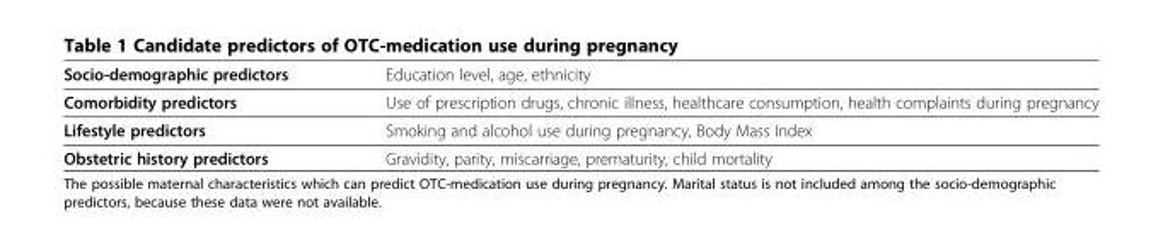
<table><thead><tr><td>Socio-demographic predictors</td><td>Education level, age, ethnicity</td></tr></thead><tbody><tr><td>Comorbidity predictors</td><td>Use of prescription drugs, chronic illness, healthcare consumption, health complaints during pregnancy</td></tr><tr><td>Lifestyle predictors</td><td>Smoking and alcohol use during pregnancy, Body Mass Index</td></tr><tr><td>Obstetric history predictors</td><td>Gravidity, parity, miscarriage, prematurity, child mortality</td></tr></tbody></table>